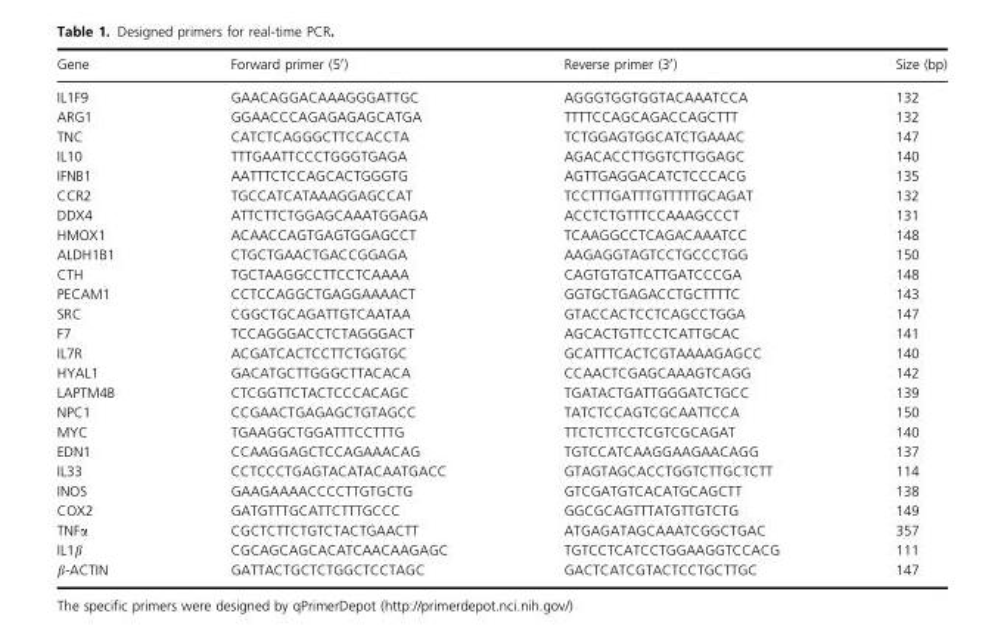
<table><thead><tr><td>Gene</td><td>Forward primer (5′)</td><td>Reverse primer (3′)</td><td>Size (bp)</td></tr></thead><tbody><tr><td>IL1F9</td><td>GAACAGGACAAAGGGATTGC</td><td>AGGGTGGTGGTACAAATCCA</td><td>132</td></tr><tr><td>ARG1</td><td>GGAACCCAGAGAGAGCATGA</td><td>TTTTCCAGCAGACCAGCTTT</td><td>132</td></tr><tr><td>TNC</td><td>CATCTCAGGGCTTCCACCTA</td><td>TCTGGAGTGGCATCTGAAAC</td><td>147</td></tr><tr><td>IL10</td><td>TTTGAATTCCCTGGGTGAGA</td><td>AGACACCTTGGTCTTGGAGC</td><td>140</td></tr><tr><td>IFNB1</td><td>AATTTCTCCAGCACTGGGTG</td><td>AGTTGAGGACATCTCCCACG</td><td>135</td></tr><tr><td>CCR2</td><td>TGCCATCATAAAGGAGCCAT</td><td>TCCTTTGATTTGTTTTTGCAGAT</td><td>132</td></tr><tr><td>DDX4</td><td>ATTCTTCTGGAGCAAATGGAGA</td><td>ACCTCTGTTTCCAAAGCCCT</td><td>131</td></tr><tr><td>HMOX1</td><td>ACAACCAGTGAGTGGAGCCT</td><td>TCAAGGCCTCAGACAAATCC</td><td>148</td></tr><tr><td>ALDH1B1</td><td>CTGCTGAACTGACCGGAGA</td><td>AAGAGGTAGTCCTGCCCTGG</td><td>150</td></tr><tr><td>CTH</td><td>TGCTAAGGCCTTCCTCAAAA</td><td>CAGTGTGTCATTGATCCCGA</td><td>148</td></tr><tr><td>PECAM1</td><td>CCTCCAGGCTGAGGAAAACT</td><td>GGTGCTGAGACCTGCTTTTC</td><td>143</td></tr><tr><td>SRC</td><td>CGGCTGCAGATTGTCAATAA</td><td>GTACCACTCCTCAGCCTGGA</td><td>147</td></tr><tr><td>F7</td><td>TCCAGGGACCTCTAGGGACT</td><td>AGCACTGTTCCTCATTGCAC</td><td>141</td></tr><tr><td>IL7R</td><td>ACGATCACTCCTTCTGGTGC</td><td>GCATTTCACTCGTAAAAGAGCC</td><td>140</td></tr><tr><td>HYAL1</td><td>GACATGCTTGGGCTTACACA</td><td>CCAACTCGAGCAAAGTCAGG</td><td>142</td></tr><tr><td>LAPTM4B</td><td>CTCGGTTCTACTCCCACAGC</td><td>TGATACTGATTGGGATCTGCC</td><td>139</td></tr><tr><td>NPC1</td><td>CCGAACTGAGAGCTGTAGCC</td><td>TATCTCCAGTCGCAATTCCA</td><td>150</td></tr><tr><td>MYC</td><td>TGAAGGCTGGATTTCCTTTG</td><td>TTCTCTTCCTCGTCGCAGAT</td><td>140</td></tr><tr><td>EDN1</td><td>CCAAGGAGCTCCAGAAACAG</td><td>TGTCCATCAAGGAAGAACAGG</td><td>137</td></tr><tr><td>IL33</td><td>CCTCCCTGAGTACATACAATGACC</td><td>GTAGTAGCACCTGGTCTTGCTCTT</td><td>114</td></tr><tr><td>INOS</td><td>GAAGAAAACCCCTTGTGCTG</td><td>GTCGATGTCACATGCAGCTT</td><td>138</td></tr><tr><td>COX2</td><td>GATGTTTGCATTCTTTGCCC</td><td>GGCGCAGTTTATGTTGTCTG</td><td>149</td></tr><tr><td>TNFα</td><td>CGCTCTTCTGTCTACTGAACTT</td><td>ATGAGATAGCAAATCGGCTGAC</td><td>357</td></tr><tr><td>IL1β</td><td>CGCAGCAGCACATCAACAAGAGC</td><td>TGTCCTCATCCTGGAAGGTCCACG</td><td>111</td></tr><tr><td>β-ACTIN</td><td>GATTACTGCTCTGGCTCCTAGC</td><td>GACTCATCGTACTCCTGCTTGC</td><td>147</td></tr></tbody></table>